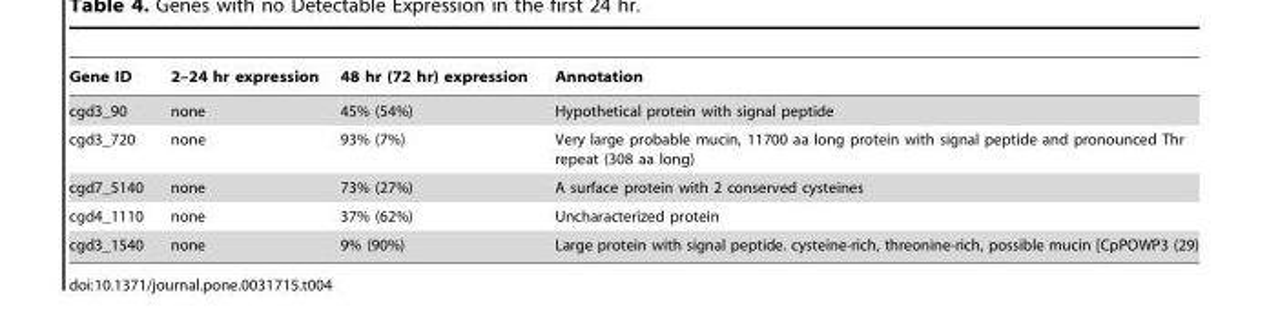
<table><thead><tr><td>Gene ID</td><td>2–24 hr expression</td><td>48 hr (72 hr) expression</td><td>Annotation</td></tr></thead><tbody><tr><td>cgd3_90</td><td>none</td><td>45% (54%)</td><td>Hypothetical protein with signal peptide</td></tr><tr><td>cgd3_720</td><td>none</td><td>93% (7%)</td><td>Very large probable mucin, 11700 aa long protein with signal peptide and pronounced Thr repeat (308 aa long)</td></tr><tr><td>cgd7_5140</td><td>none</td><td>73% (27%)</td><td>A surface protein with 2 conserved cysteines</td></tr><tr><td>cgd4_1110</td><td>none</td><td>37% (62%)</td><td>Uncharacterized protein</td></tr><tr><td>cgd3_1540</td><td>none</td><td>9% (90%)</td><td>Large protein with signal peptide. cysteine-rich, threonine-rich, possible mucin [CpPOWP3 (29)</td></tr></tbody></table>